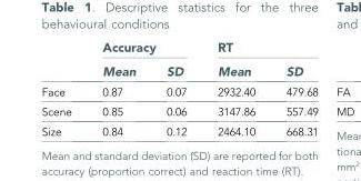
<table><thead><tr><td rowspan="2"></td><td colspan="2">Accuracy</td><td colspan="2">RT</td></tr><tr><td>Mean</td><td>SD</td><td>Mean</td><td>SD</td></tr></thead><tbody><tr><td>Face</td><td>0.87</td><td>0.07</td><td>2932.40</td><td>479.68</td></tr><tr><td>Scene</td><td>0.85</td><td>0.06</td><td>3147.86</td><td>557.49</td></tr><tr><td>Size</td><td>0.84</td><td>0.12</td><td>2464.10</td><td>668.31</td></tr></tbody></table>